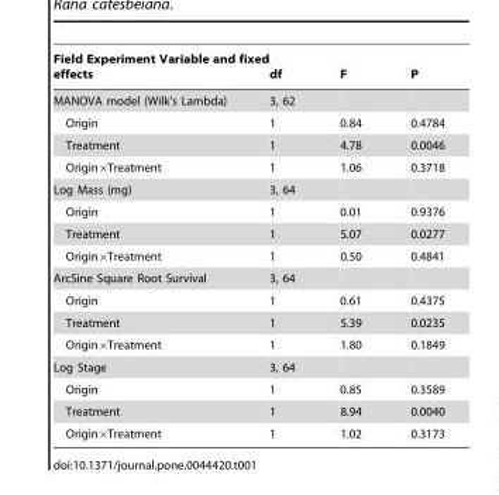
<table><thead><tr><td>Field Experiment Variable and fixed effects</td><td>df</td><td>F</td><td>P</td></tr></thead><tbody><tr><td>MANOVA model (Wilk’s Lambda)</td><td>3, 62</td><td></td><td></td></tr><tr><td>Origin</td><td>1</td><td>0.84</td><td>0.4784</td></tr><tr><td>Treatment</td><td>1</td><td>4.78</td><td>0.0046</td></tr><tr><td>Origin×Treatment</td><td>1</td><td>1.06</td><td>0.3718</td></tr><tr><td>Log Mass (mg)</td><td>3, 64</td><td></td><td></td></tr><tr><td>Origin</td><td>1</td><td>0.01</td><td>0.9376</td></tr><tr><td>Treatment</td><td>1</td><td>5.07</td><td>0.0277</td></tr><tr><td>Origin×Treatment</td><td>1</td><td>0.50</td><td>0.4841</td></tr><tr><td>ArcSine Square Root Survival</td><td>3, 64</td><td></td><td></td></tr><tr><td>Origin</td><td>1</td><td>0.61</td><td>0.4375</td></tr><tr><td>Treatment</td><td>1</td><td>5.39</td><td>0.0235</td></tr><tr><td>Origin×Treatment</td><td>1</td><td>1.80</td><td>0.1849</td></tr><tr><td>Log Stage</td><td>3, 64</td><td></td><td></td></tr><tr><td>Origin</td><td>1</td><td>0.85</td><td>0.3589</td></tr><tr><td>Treatment</td><td>1</td><td>8.94</td><td>0.0040</td></tr><tr><td>Origin×Treatment</td><td>1</td><td>1.02</td><td>0.3173</td></tr></tbody></table>